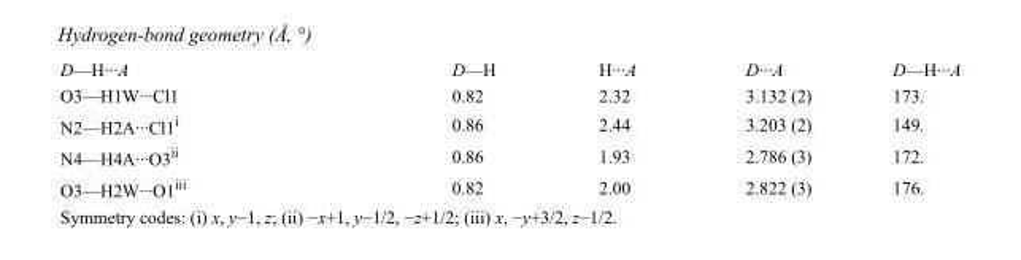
<table><tbody><tr><td>D—H···A</td><td>D—H</td><td>H···A</td><td>D···A</td><td>D—H···A</td></tr><tr><td>O3—H1W···Cl1</td><td>0.82</td><td>2.32</td><td>3.132 (2)</td><td>173.</td></tr><tr><td>N2—H2A···Cl1<sup>i</sup></td><td>0.86</td><td>2.44</td><td>3.203 (2)</td><td>149.</td></tr><tr><td>N4—H4A···O3<sup>ii</sup></td><td>0.86</td><td>1.93</td><td>2.786 (3)</td><td>172.</td></tr><tr><td>O3—H2W···O1<sup>iii</sup></td><td>0.82</td><td>2.00</td><td>2.822 (3)</td><td>176.</td></tr></tbody></table>